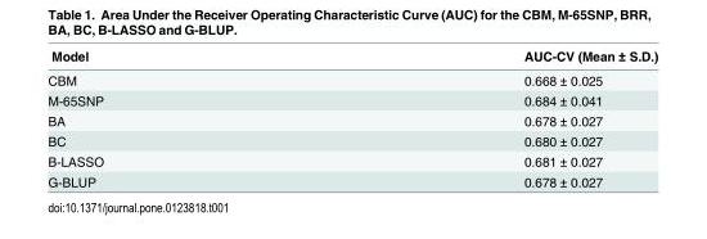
<table><thead><tr><td>Model</td><td>AUC-CV (Mean ± S.D.)</td></tr></thead><tbody><tr><td>CBM</td><td>0.668 ± 0.025</td></tr><tr><td>M-65SNP</td><td>0.684 ± 0.041</td></tr><tr><td>BA</td><td>0.678 ± 0.027</td></tr><tr><td>BC</td><td>0.680 ± 0.027</td></tr><tr><td>B-LASSO</td><td>0.681 ± 0.027</td></tr><tr><td>G-BLUP</td><td>0.678 ± 0.027</td></tr></tbody></table>